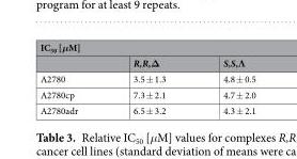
<table><thead><tr><td colspan="3">IC<sub>50</sub> [μM]</td></tr><tr><td></td><td>R,R,Δ</td><td>S,S,Λ</td></tr></thead><tbody><tr><td>A2780</td><td>3.5 ± 1.3</td><td>4.8 ± 0.5</td></tr><tr><td>A2780cp</td><td>7.3 ± 2.1</td><td>4.7 ± 2.0</td></tr><tr><td>A2780adr</td><td>6.5 ± 3.2</td><td>4.3 ± 2.1</td></tr></tbody></table>